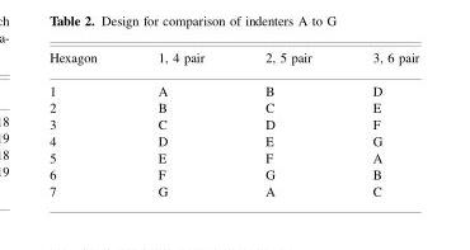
<table><thead><tr><td>Hexagon</td><td>1, 4 pair</td><td>2, 5 pair</td><td>3, 6 pair</td></tr></thead><tbody><tr><td>1</td><td>A</td><td>B</td><td>D</td></tr><tr><td>2</td><td>B</td><td>C</td><td>E</td></tr><tr><td>3</td><td>C</td><td>D</td><td>F</td></tr><tr><td>4</td><td>D</td><td>E</td><td>G</td></tr><tr><td>5</td><td>E</td><td>F</td><td>A</td></tr><tr><td>6</td><td>F</td><td>G</td><td>B</td></tr><tr><td>7</td><td>G</td><td>A</td><td>C</td></tr></tbody></table>